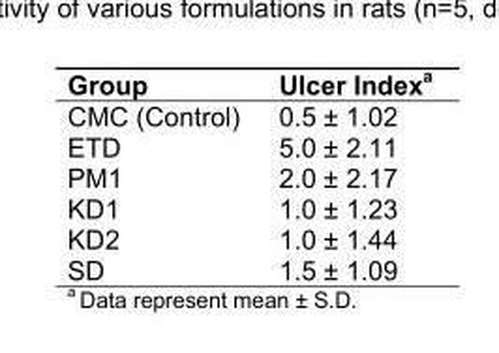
<table><thead><tr><td>Group</td><td>Ulcer Index<sup>a</sup></td></tr></thead><tbody><tr><td>CMC (Control)</td><td>0.5 ± 1.02</td></tr><tr><td>ETD</td><td>5.0 ± 2.11</td></tr><tr><td>PM1</td><td>2.0 ± 2.17</td></tr><tr><td>KD1</td><td>1.0 ± 1.23</td></tr><tr><td>KD2</td><td>1.0 ± 1.44</td></tr><tr><td>SD</td><td>1.5 ± 1.09</td></tr></tbody></table>